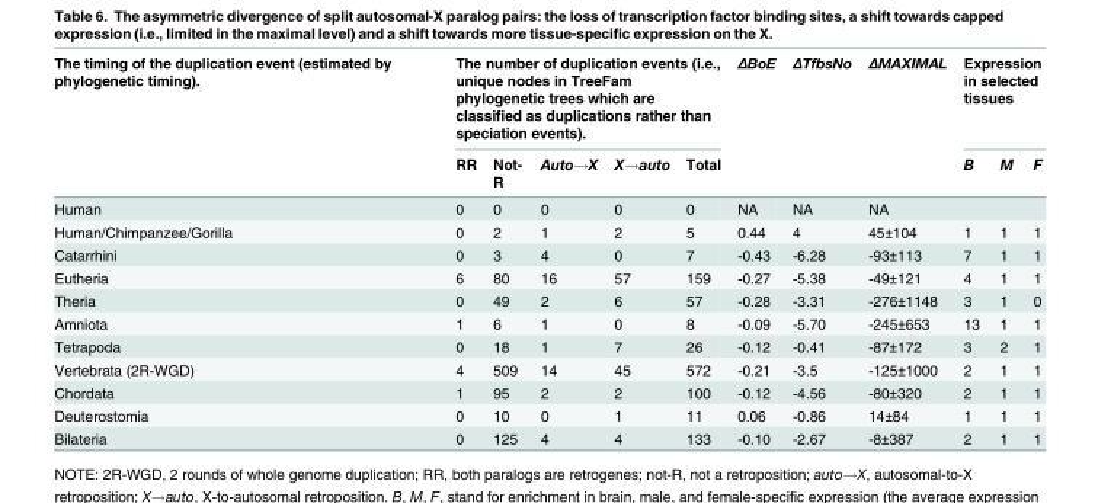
<table><thead><tr><td rowspan="2">The timing of the duplication event (estimated by phylogenetic timing).</td><td colspan="5">The number of duplication events (i.e., unique nodes in TreeFam phylogenetic trees which are classified as duplications rather than speciation events).</td><td rowspan="2">ΔBoE</td><td rowspan="2">ΔTfbsNo</td><td rowspan="2">ΔMAXIMAL</td><td colspan="3">Expression in selected tissues</td></tr><tr><td>RR</td><td>Not- R</td><td>Auto→X</td><td>X→auto</td><td>Total</td><td>B</td><td>M</td><td>F</td></tr></thead><tbody><tr><td>Human</td><td>0</td><td>0</td><td>0</td><td>0</td><td>0</td><td>NA</td><td>NA</td><td>NA</td><td></td><td></td><td></td></tr><tr><td>Human/Chimpanzee/Gorilla</td><td>0</td><td>2</td><td>1</td><td>2</td><td>5</td><td>0.44</td><td>4</td><td>45±104</td><td>1</td><td>1</td><td>1</td></tr><tr><td>Catarrhini</td><td>0</td><td>3</td><td>4</td><td>0</td><td>7</td><td>-0.43</td><td>-6.28</td><td>-93±113</td><td>7</td><td>1</td><td>1</td></tr><tr><td>Eutheria</td><td>6</td><td>80</td><td>16</td><td>57</td><td>159</td><td>-0.27</td><td>-5.38</td><td>-49±121</td><td>4</td><td>1</td><td>1</td></tr><tr><td>Theria</td><td>0</td><td>49</td><td>2</td><td>6</td><td>57</td><td>-0.28</td><td>-3.31</td><td>-276±1148</td><td>3</td><td>1</td><td>0</td></tr><tr><td>Amniota</td><td>1</td><td>6</td><td>1</td><td>0</td><td>8</td><td>-0.09</td><td>-5.70</td><td>-245±653</td><td>13</td><td>1</td><td>1</td></tr><tr><td>Tetrapoda</td><td>0</td><td>18</td><td>1</td><td>7</td><td>26</td><td>-0.12</td><td>-0.41</td><td>-87±172</td><td>3</td><td>2</td><td>1</td></tr><tr><td>Vertebrata (2R-WGD)</td><td>4</td><td>509</td><td>14</td><td>45</td><td>572</td><td>-0.21</td><td>-3.5</td><td>-125±1000</td><td>2</td><td>1</td><td>1</td></tr><tr><td>Chordata</td><td>1</td><td>95</td><td>2</td><td>2</td><td>100</td><td>-0.12</td><td>-4.56</td><td>-80±320</td><td>2</td><td>1</td><td>1</td></tr><tr><td>Deuterostomia</td><td>0</td><td>10</td><td>0</td><td>1</td><td>11</td><td>0.06</td><td>-0.86</td><td>14±84</td><td>1</td><td>1</td><td>1</td></tr><tr><td>Bilateria</td><td>0</td><td>125</td><td>4</td><td>4</td><td>133</td><td>-0.10</td><td>-2.67</td><td>-8±387</td><td>2</td><td>1</td><td>1</td></tr></tbody></table>